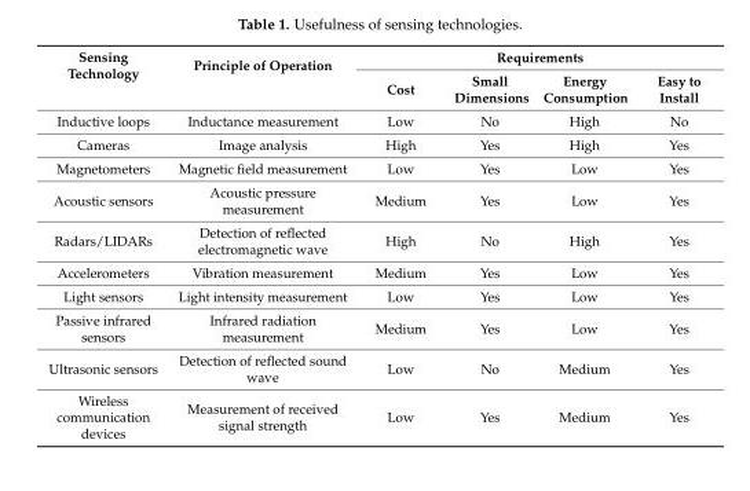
<table><thead><tr><td rowspan="2">Sensing Technology</td><td rowspan="2">Principle of Operation</td><td colspan="4">Requirements</td></tr><tr><td>Cost</td><td>Small Dimensions</td><td>Energy Consumption</td><td>Easy to Install</td></tr></thead><tbody><tr><td>Inductive loops</td><td>Inductance measurement</td><td>Low</td><td>No</td><td>High</td><td>No</td></tr><tr><td>Cameras</td><td>Image analysis</td><td>High</td><td>Yes</td><td>High</td><td>Yes</td></tr><tr><td>Magnetometers</td><td>Magnetic field measurement</td><td>Low</td><td>Yes</td><td>Low</td><td>Yes</td></tr><tr><td>Acoustic sensors</td><td>Acoustic pressure measurement</td><td>Medium</td><td>Yes</td><td>Low</td><td>Yes</td></tr><tr><td>Radars/LIDARs</td><td>Detection of reflected electromagnetic wave</td><td>High</td><td>No</td><td>High</td><td>Yes</td></tr><tr><td>Accelerometers</td><td>Vibration measurement</td><td>Medium</td><td>Yes</td><td>Low</td><td>Yes</td></tr><tr><td>Light sensors</td><td>Light intensity measurement</td><td>Low</td><td>Yes</td><td>Low</td><td>Yes</td></tr><tr><td>Passive infrared sensors</td><td>Infrared radiation measurement</td><td>Medium</td><td>Yes</td><td>Low</td><td>Yes</td></tr><tr><td>Ultrasonic sensors</td><td>Detection of reflected sound wave</td><td>Low</td><td>No</td><td>Medium</td><td>Yes</td></tr><tr><td>Wireless communication devices</td><td>Measurement of received signal strength</td><td>Low</td><td>Yes</td><td>Medium</td><td>Yes</td></tr></tbody></table>